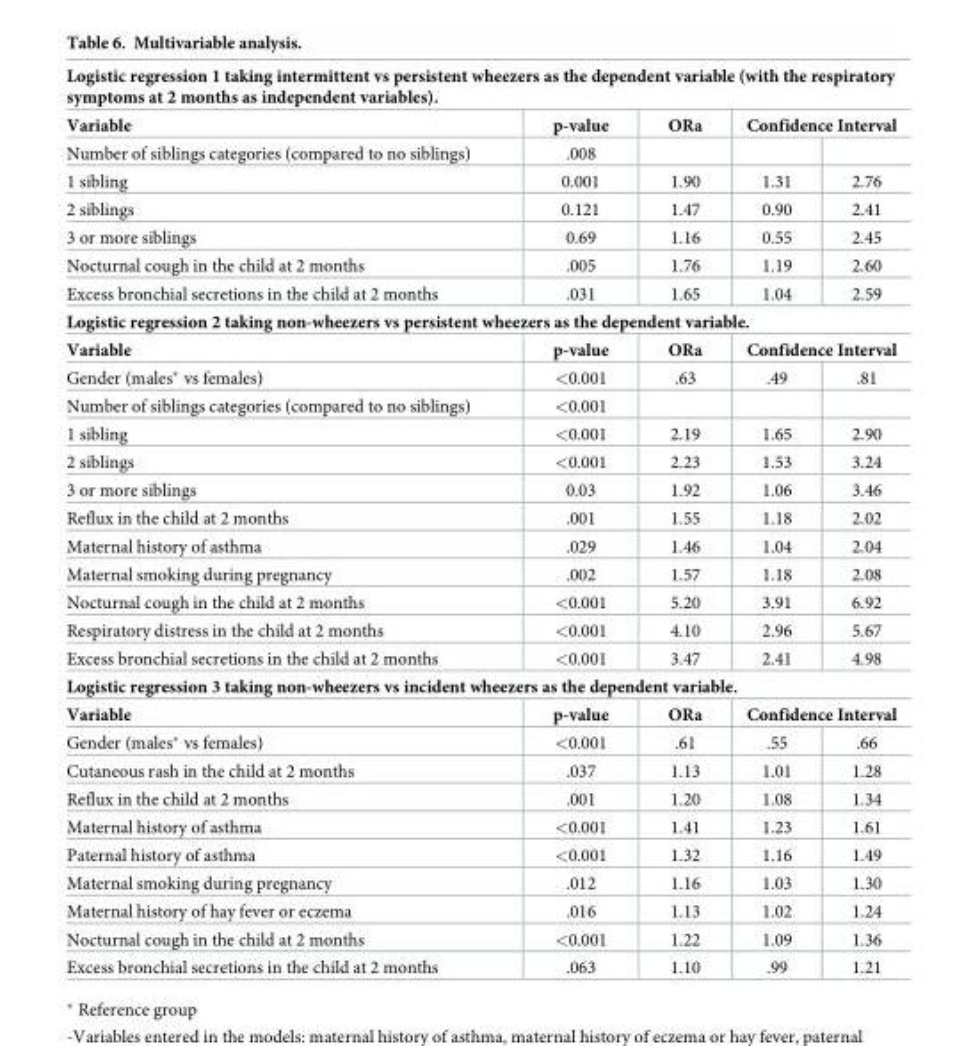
<table><tbody><tr><td colspan="5">Logistic regression 1 taking intermittent vs persistent wheezers as the dependent variable (with the respiratory symptoms at 2 months as independent variables).</td></tr><tr><td>Variable</td><td>p-value</td><td>ORa</td><td colspan="2">Confidence Interval</td></tr><tr><td>Number of siblings categories (compared to no siblings)</td><td>.008</td><td></td><td></td><td></td></tr><tr><td>1 sibling</td><td>0.001</td><td>1.90</td><td>1.31</td><td>2.76</td></tr><tr><td>2 siblings</td><td>0.121</td><td>1.47</td><td>0.90</td><td>2.41</td></tr><tr><td>3 or more siblings</td><td>0.69</td><td>1.16</td><td>0.55</td><td>2.45</td></tr><tr><td>Nocturnal cough in the child at 2 months</td><td>.005</td><td>1.76</td><td>1.19</td><td>2.60</td></tr><tr><td>Excess bronchial secretions in the child at 2 months</td><td>.031</td><td>1.65</td><td>1.04</td><td>2.59</td></tr><tr><td colspan="5">Logistic regression 2 taking non-wheezers vs persistent wheezers as the dependent variable.</td></tr><tr><td>Variable</td><td>p-value</td><td>ORa</td><td colspan="2">Confidence Interval</td></tr><tr><td>Gender (males* vs females)</td><td>&lt;0.001</td><td>.63</td><td>.49</td><td>.81</td></tr><tr><td>Number of siblings categories (compared to no siblings)</td><td>&lt;0.001</td><td></td><td></td><td></td></tr><tr><td>1 sibling</td><td>&lt;0.001</td><td>2.19</td><td>1.65</td><td>2.90</td></tr><tr><td>2 siblings</td><td>&lt;0.001</td><td>2.23</td><td>1.53</td><td>3.24</td></tr><tr><td>3 or more siblings</td><td>0.03</td><td>1.92</td><td>1.06</td><td>3.46</td></tr><tr><td>Reflux in the child at 2 months</td><td>.001</td><td>1.55</td><td>1.18</td><td>2.02</td></tr><tr><td>Maternal history of asthma</td><td>.029</td><td>1.46</td><td>1.04</td><td>2.04</td></tr><tr><td>Maternal smoking during pregnancy</td><td>.002</td><td>1.57</td><td>1.18</td><td>2.08</td></tr><tr><td>Nocturnal cough in the child at 2 months</td><td>&lt;0.001</td><td>5.20</td><td>3.91</td><td>6.92</td></tr><tr><td>Respiratory distress in the child at 2 months</td><td>&lt;0.001</td><td>4.10</td><td>2.96</td><td>5.67</td></tr><tr><td>Excess bronchial secretions in the child at 2 months</td><td>&lt;0.001</td><td>3.47</td><td>2.41</td><td>4.98</td></tr><tr><td colspan="5">Logistic regression 3 taking non-wheezers vs incident wheezers as the dependent variable.</td></tr><tr><td>Variable</td><td>p-value</td><td>ORa</td><td colspan="2">Confidence Interval</td></tr><tr><td>Gender (males* vs females)</td><td>&lt;0.001</td><td>.61</td><td>.55</td><td>.66</td></tr><tr><td>Cutaneous rash in the child at 2 months</td><td>.037</td><td>1.13</td><td>1.01</td><td>1.28</td></tr><tr><td>Reflux in the child at 2 months</td><td>.001</td><td>1.20</td><td>1.08</td><td>1.34</td></tr><tr><td>Maternal history of asthma</td><td>&lt;0.001</td><td>1.41</td><td>1.23</td><td>1.61</td></tr><tr><td>Paternal history of asthma</td><td>&lt;0.001</td><td>1.32</td><td>1.16</td><td>1.49</td></tr><tr><td>Maternal smoking during pregnancy</td><td>.012</td><td>1.16</td><td>1.03</td><td>1.30</td></tr><tr><td>Maternal history of hay fever or eczema</td><td>.016</td><td>1.13</td><td>1.02</td><td>1.24</td></tr><tr><td>Nocturnal cough in the child at 2 months</td><td>&lt;0.001</td><td>1.22</td><td>1.09</td><td>1.36</td></tr><tr><td>Excess bronchial secretions in the child at 2 months</td><td>.063</td><td>1.10</td><td>.99</td><td>1.21</td></tr></tbody></table>